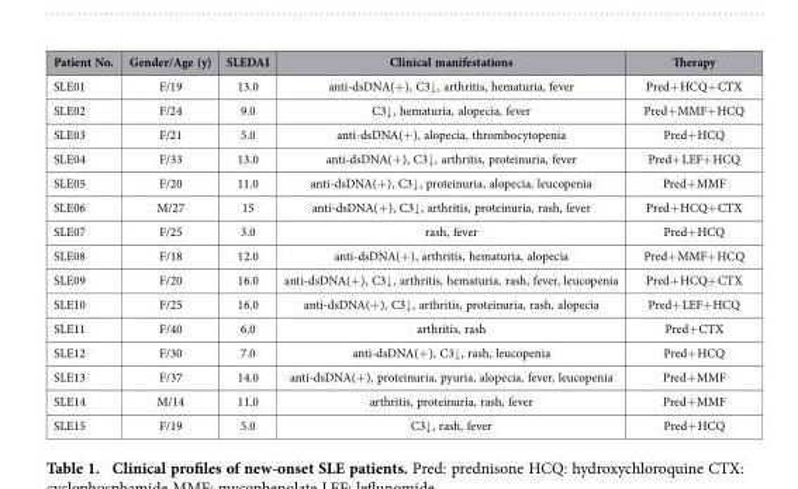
<table><thead><tr><td>Patient No.</td><td>Gender/Age (y)</td><td>SLEDAI</td><td>Clinical manifestations</td><td>Therapy</td></tr></thead><tbody><tr><td>SLE01</td><td>F/19</td><td>13.0</td><td>anti-dsDNA(+ ), C3↓ , arthritis, hematuria, fever</td><td>Pred+ HCQ+ CTX</td></tr><tr><td>SLE02</td><td>F/24</td><td>9.0</td><td>C3↓ , hematuria, alopecia, fever</td><td>Pred+ MMF+ HCQ</td></tr><tr><td>SLE03</td><td>F/21</td><td>5.0</td><td>anti-dsDNA(+ ), alopecia, thrombocytopenia</td><td>Pred+ HCQ</td></tr><tr><td>SLE04</td><td>F/33</td><td>13.0</td><td>anti-dsDNA(+ ), C3↓ , arthritis, proteinuria, fever</td><td>Pred+ LEF+ HCQ</td></tr><tr><td>SLE05</td><td>F/20</td><td>11.0</td><td>anti-dsDNA(+ ), C3↓ , proteinuria, alopecia, leucopenia</td><td>Pred+ MMF</td></tr><tr><td>SLE06</td><td>M/27</td><td>15</td><td>anti-dsDNA(+ ), C3↓ , arthritis, proteinuria, rash, fever</td><td>Pred+ HCQ+ CTX</td></tr><tr><td>SLE07</td><td>F/25</td><td>3.0</td><td>rash, fever</td><td>Pred+ HCQ</td></tr><tr><td>SLE08</td><td>F/18</td><td>12.0</td><td>anti-dsDNA(+ ), arthritis, hematuria, alopecia</td><td>Pred+ MMF+ HCQ</td></tr><tr><td>SLE09</td><td>F/20</td><td>16.0</td><td>anti-dsDNA(+ ), C3↓ , arthritis, hematuria, rash, fever, leucopenia</td><td>Pred+ HCQ+ CTX</td></tr><tr><td>SLE10</td><td>F/25</td><td>16.0</td><td>anti-dsDNA(+ ), C3↓ , arthritis, proteinuria, rash, alopecia</td><td>Pred+ LEF+ HCQ</td></tr><tr><td>SLE11</td><td>F/40</td><td>6.0</td><td>arthritis, rash</td><td>Pred+ CTX</td></tr><tr><td>SLE12</td><td>F/30</td><td>7.0</td><td>anti-dsDNA(+ ), C3↓ , rash, leucopenia</td><td>Pred+ HCQ</td></tr><tr><td>SLE13</td><td>F/37</td><td>14.0</td><td>anti-dsDNA(+ ), proteinuria, pyuria, alopecia, fever, leucopenia</td><td>Pred+ MMF</td></tr><tr><td>SLE14</td><td>M/14</td><td>11.0</td><td>arthritis, proteinuria, rash, fever</td><td>Pred+ MMF</td></tr><tr><td>SLE15</td><td>F/19</td><td>5.0</td><td>C3↓ , rash, fever</td><td>Pred+ HCQ</td></tr></tbody></table>